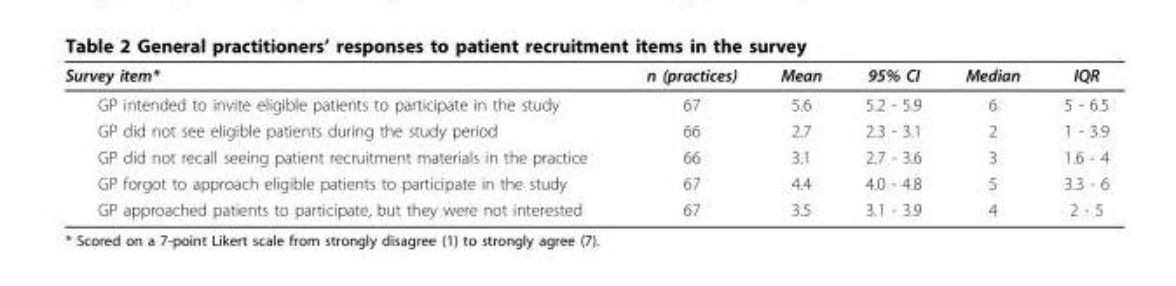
<table><thead><tr><td>Survey item*</td><td>n (practices)</td><td>Mean</td><td>95% CI</td><td>Median</td><td>IQR</td></tr></thead><tbody><tr><td>GP intended to invite eligible patients to participate in the study</td><td>67</td><td>5.6</td><td>5.2 - 5.9</td><td>6</td><td>5 - 6.5</td></tr><tr><td>GP did not see eligible patients during the study period</td><td>66</td><td>2.7</td><td>2.3 - 3.1</td><td>2</td><td>1 - 3.9</td></tr><tr><td>GP did not recall seeing patient recruitment materials in the practice</td><td>66</td><td>3.1</td><td>2.7 - 3.6</td><td>3</td><td>1.6 - 4</td></tr><tr><td>GP forgot to approach eligible patients to participate in the study</td><td>67</td><td>4.4</td><td>4.0 - 4.8</td><td>5</td><td>3.3 - 6</td></tr><tr><td>GP approached patients to participate, but they were not interested</td><td>67</td><td>3.5</td><td>3.1 - 3.9</td><td>4</td><td>2 - 5</td></tr></tbody></table>